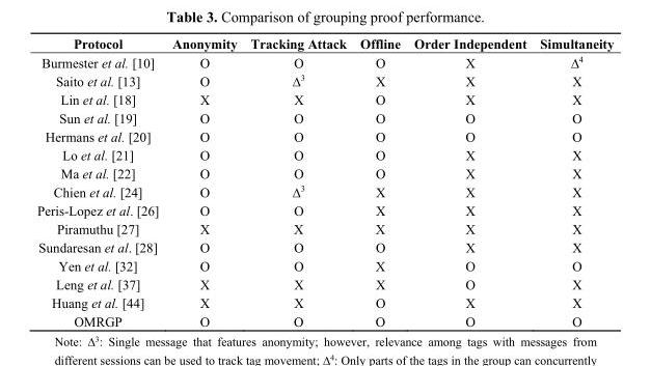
<table><thead><tr><td>Protocol</td><td>Anonymity</td><td>Tracking Attack</td><td>Offline</td><td>Order Independent</td><td>Simultaneity</td></tr></thead><tbody><tr><td>Burmester et al. [10]</td><td>O</td><td>O</td><td>O</td><td>X</td><td>∆<sup>4</sup></td></tr><tr><td>Saito et al. [13]</td><td>O</td><td>∆<sup>3</sup></td><td>X</td><td>X</td><td>X</td></tr><tr><td>Lin et al. [18]</td><td>X</td><td>X</td><td>O</td><td>X</td><td>X</td></tr><tr><td>Sun et al. [19]</td><td>O</td><td>O</td><td>O</td><td>O</td><td>O</td></tr><tr><td>Hermans et al. [20]</td><td>O</td><td>O</td><td>O</td><td>O</td><td>O</td></tr><tr><td>Lo et al. [21]</td><td>O</td><td>O</td><td>O</td><td>X</td><td>X</td></tr><tr><td>Ma et al. [22]</td><td>O</td><td>O</td><td>O</td><td>X</td><td>X</td></tr><tr><td>Chien et al. [24]</td><td>O</td><td>∆<sup>3</sup></td><td>X</td><td>X</td><td>X</td></tr><tr><td>Peris-Lopez et al. [26]</td><td>O</td><td>O</td><td>X</td><td>X</td><td>X</td></tr><tr><td>Piramuthu [27]</td><td>X</td><td>X</td><td>X</td><td>X</td><td>X</td></tr><tr><td>Sundaresan et al. [28]</td><td>O</td><td>O</td><td>O</td><td>X</td><td>X</td></tr><tr><td>Yen et al. [32]</td><td>O</td><td>O</td><td>X</td><td>O</td><td>O</td></tr><tr><td>Leng et al. [37]</td><td>X</td><td>X</td><td>X</td><td>O</td><td>X</td></tr><tr><td>Huang et al. [44]</td><td>X</td><td>X</td><td>O</td><td>X</td><td>X</td></tr><tr><td>OMRGP</td><td>O</td><td>O</td><td>O</td><td>O</td><td>O</td></tr></tbody></table>